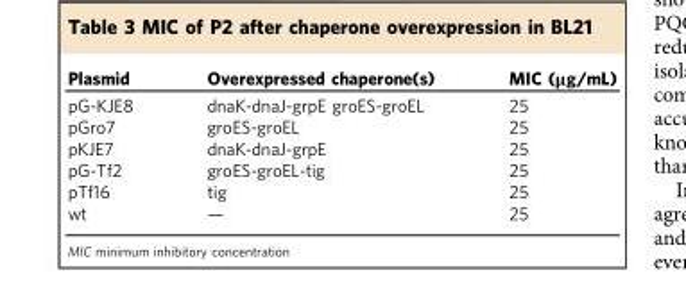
<table><thead><tr><td>Plasmid</td><td>Overexpressed chaperone(s)</td><td>MIC (μg/mL)</td></tr></thead><tbody><tr><td>pG-KJE8</td><td>dnaK-dnaJ-grpE groES-groEL</td><td>25</td></tr><tr><td>pGro7</td><td>groES-groEL</td><td>25</td></tr><tr><td>pKJE7</td><td>dnaK-dnaJ-grpE</td><td>25</td></tr><tr><td>pG-Tf2</td><td>groES-groEL-tig</td><td>25</td></tr><tr><td>pTf16</td><td>tig</td><td>25</td></tr><tr><td>wt</td><td>—</td><td>25</td></tr></tbody></table>